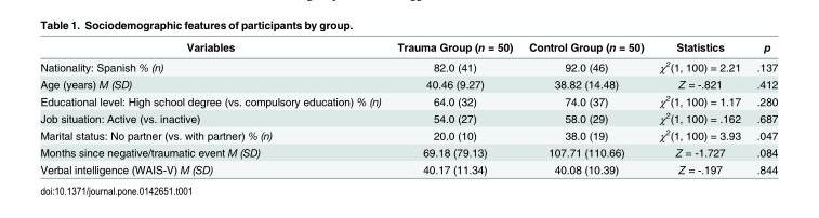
<table><thead><tr><td>Variables</td><td>Trauma Group (n = 50)</td><td>Control Group (n = 50)</td><td>Statistics</td><td>p</td></tr></thead><tbody><tr><td>Nationality: Spanish % (n)</td><td>82.0 (41)</td><td>92.0 (46)</td><td>χ<sup>2</sup>(1, 100) = 2.21</td><td>.137</td></tr><tr><td>Age (years) M (SD)</td><td>40.46 (9.27)</td><td>38.82 (14.48)</td><td>Z = -.821</td><td>.412</td></tr><tr><td>Educational level: High school degree (vs. compulsory education) % (n)</td><td>64.0 (32)</td><td>74.0 (37)</td><td>χ<sup>2</sup>(1, 100) = 1.17</td><td>.280</td></tr><tr><td>Job situation: Active (vs. inactive)</td><td>54.0 (27)</td><td>58.0 (29)</td><td>χ<sup>2</sup>(1, 100) = .162</td><td>.687</td></tr><tr><td>Marital status: No partner (vs. with partner) % (n)</td><td>20.0 (10)</td><td>38.0 (19)</td><td>χ<sup>2</sup>(1, 100) = 3.93</td><td>.047</td></tr><tr><td>Months since negative/traumatic event M (SD)</td><td>69.18 (79.13)</td><td>107.71 (110.66)</td><td>Z = -1.727</td><td>.084</td></tr><tr><td>Verbal intelligence (WAIS-V) M (SD)</td><td>40.17 (11.34)</td><td>40.08 (10.39)</td><td>Z = -.197</td><td>.844</td></tr></tbody></table>